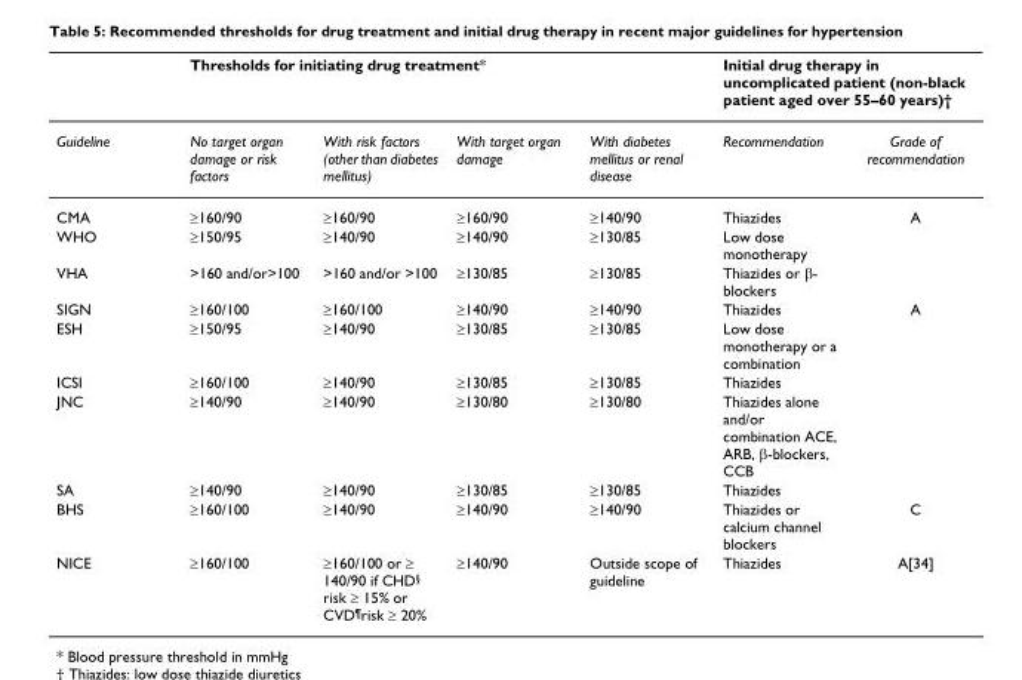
<table><thead><tr><td rowspan="2">Guideline</td><td colspan="4">Thresholds for initiating drug treatment*</td><td colspan="2">Initial drug therapy in uncomplicated patient (non-black patient aged over 55–60 years)†</td></tr><tr><td>No target organ damage or risk factors</td><td>With risk factors (other than diabetes mellitus)</td><td>With target organ damage</td><td>With diabetes mellitus or renal disease</td><td>Recommendation</td><td>Grade of recommendation</td></tr></thead><tbody><tr><td>CMA</td><td>≥160/90</td><td>≥160/90</td><td>≥160/90</td><td>≥140/90</td><td>Thiazides</td><td>A</td></tr><tr><td>WHO</td><td>≥150/95</td><td>≥140/90</td><td>≥140/90</td><td>≥130/85</td><td>Low dose monotherapy</td><td></td></tr><tr><td>VHA</td><td>&gt;160 and/or&gt;100</td><td>&gt;160 and/or &gt;100</td><td>≥130/85</td><td>≥130/85</td><td>Thiazides or β- blockers</td><td></td></tr><tr><td>SIGN</td><td>≥160/100</td><td>≥160/100</td><td>≥140/90</td><td>≥140/90</td><td>Thiazides</td><td>A</td></tr><tr><td>ESH</td><td>≥150/95</td><td>≥140/90</td><td>≥130/85</td><td>≥130/85</td><td>Low dose monotherapy or a combination</td><td></td></tr><tr><td>ICSI</td><td>≥160/100</td><td>≥140/90</td><td>≥130/85</td><td>≥130/85</td><td>Thiazides</td><td></td></tr><tr><td>JNC</td><td>≥140/90</td><td>≥140/90</td><td>≥130/80</td><td>≥130/80</td><td>Thiazides alone and/or combination ACE, ARB, β-blockers, CCB</td><td></td></tr><tr><td>SA</td><td>≥140/90</td><td>≥140/90</td><td>≥130/85</td><td>≥130/85</td><td>Thiazides</td><td></td></tr><tr><td>BHS</td><td>≥160/100</td><td>≥140/90</td><td>≥140/90</td><td>≥140/90</td><td>Thiazides or calcium channel blockers</td><td>C</td></tr><tr><td>NICE</td><td>≥160/100</td><td>≥160/100 or ≥ 140/90 if CHD§ risk ≥ 15% or CVD¶risk ≥ 20%</td><td>≥140/90</td><td>Outside scope of guideline</td><td>Thiazides</td><td>A[34]</td></tr></tbody></table>